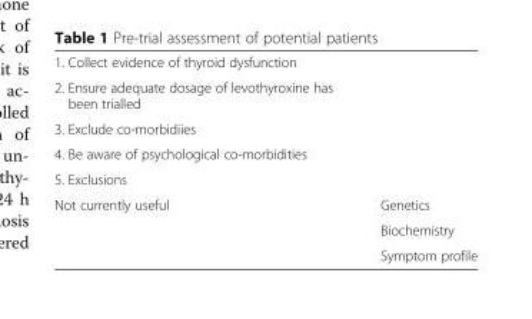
<table><tbody><tr><td colspan="2">1. Collect evidence of thyroid dysfunction</td></tr><tr><td colspan="2">2. Ensure adequate dosage of levothyroxine has been trialled</td></tr><tr><td colspan="2">3. Exclude co-morbidiies</td></tr><tr><td colspan="2">4. Be aware of psychological co-morbidities</td></tr><tr><td colspan="2">5. Exclusions</td></tr><tr><td rowspan="3">Not currently useful</td><td>Genetics</td></tr><tr><td>Biochemistry</td></tr><tr><td>Symptom profile</td></tr></tbody></table>